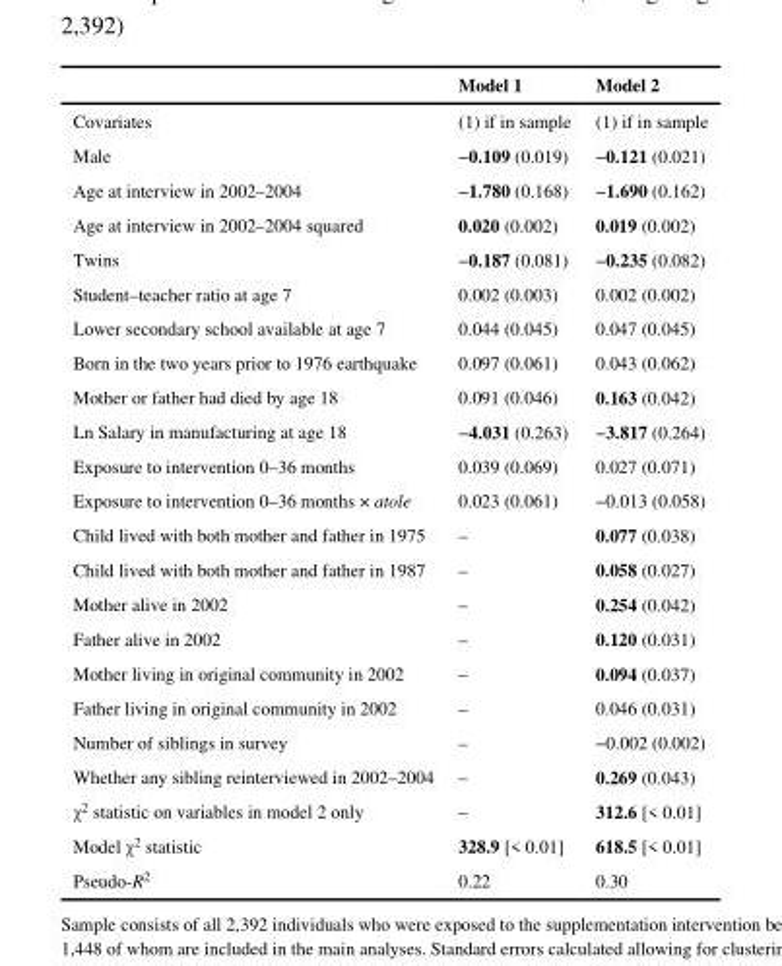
<table><thead><tr><td></td><td>Model 1</td><td>Model 2</td></tr></thead><tbody><tr><td>Covariates</td><td>(1) if in sample</td><td>(1) if in sample</td></tr><tr><td>Male</td><td>−0.109 (0.019)</td><td>−0.121 (0.021)</td></tr><tr><td>Age at interview in 2002–2004</td><td>−1.780 (0.168)</td><td>−1.690 (0.162)</td></tr><tr><td>Age at interview in 2002–2004 squared</td><td>0.020 (0.002)</td><td>0.019 (0.002)</td></tr><tr><td>Twins</td><td>−0.187 (0.081)</td><td>−0.235 (0.082)</td></tr><tr><td>Student–teacher ratio at age 7</td><td>0.002 (0.003)</td><td>0.002 (0.002)</td></tr><tr><td>Lower secondary school available at age 7</td><td>0.044 (0.045)</td><td>0.047 (0.045)</td></tr><tr><td>Born in the two years prior to 1976 earthquake</td><td>0.097 (0.061)</td><td>0.043 (0.062)</td></tr><tr><td>Mother or father had died by age 18</td><td>0.091 (0.046)</td><td>0.163 (0.042)</td></tr><tr><td>Ln Salary in manufacturing at age 18</td><td>−4.031 (0.263)</td><td>−3.817 (0.264)</td></tr><tr><td>Exposure to intervention 0–36 months</td><td>0.039 (0.069)</td><td>0.027 (0.071)</td></tr><tr><td>Exposure to intervention 0–36 months × atole</td><td>0.023 (0.061)</td><td>−0.013 (0.058)</td></tr><tr><td>Child lived with both mother and father in 1975</td><td>–</td><td>0.077 (0.038)</td></tr><tr><td>Child lived with both mother and father in 1987</td><td>–</td><td>0.058 (0.027)</td></tr><tr><td>Mother alive in 2002</td><td>–</td><td>0.254 (0.042)</td></tr><tr><td>Father alive in 2002</td><td>–</td><td>0.120 (0.031)</td></tr><tr><td>Mother living in original community in 2002</td><td>–</td><td>0.094 (0.037)</td></tr><tr><td>Father living in original community in 2002</td><td>–</td><td>0.046 (0.031)</td></tr><tr><td>Number of siblings in survey</td><td>–</td><td>−0.002 (0.002)</td></tr><tr><td>Whether any sibling reinterviewed in 2002–2004</td><td>–</td><td>0.269 (0.043)</td></tr><tr><td>χ<sup>2</sup> statistic on variables in model 2 only</td><td>–</td><td>312.6 [&lt; 0.01]</td></tr><tr><td>Model χ<sup>2</sup> statistic</td><td>328.9 [&lt; 0.01]</td><td>618.5 [&lt; 0.01]</td></tr><tr><td>Pseudo-R<sup>2</sup></td><td>0.22</td><td>0.30</td></tr></tbody></table>